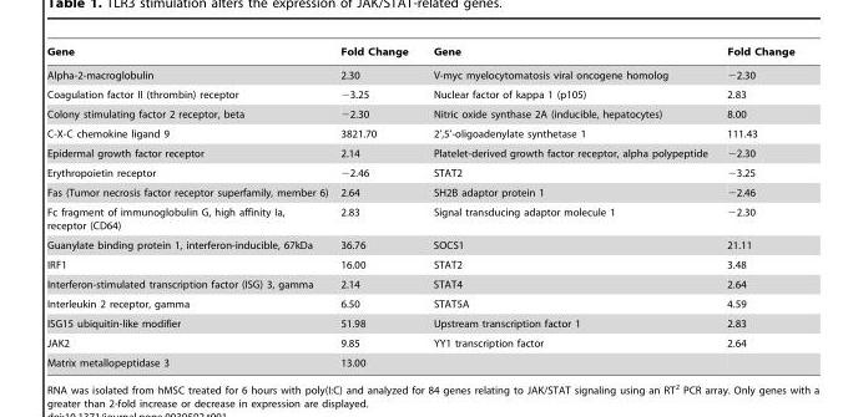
<table><thead><tr><td>Gene</td><td>Fold Change</td><td>Gene</td><td>Fold Change</td></tr></thead><tbody><tr><td>Alpha-2-macroglobulin</td><td>2.30</td><td>V-myc myelocytomatosis viral oncogene homolog</td><td>−2.30</td></tr><tr><td>Coagulation factor II (thrombin) receptor</td><td>−3.25</td><td>Nuclear factor of kappa 1 (p105)</td><td>2.83</td></tr><tr><td>Colony stimulating factor 2 receptor, beta</td><td>−2.30</td><td>Nitric oxide synthase 2A (inducible, hepatocytes)</td><td>8.00</td></tr><tr><td>C-X-C chemokine ligand 9</td><td>3821.70</td><td>2’,5’-oligoadenylate synthetase 1</td><td>111.43</td></tr><tr><td>Epidermal growth factor receptor</td><td>2.14</td><td>Platelet-derived growth factor receptor, alpha polypeptide</td><td>−2.30</td></tr><tr><td>Erythropoietin receptor</td><td>−2.46</td><td>STAT2</td><td>−3.25</td></tr><tr><td>Fas (Tumor necrosis factor receptor superfamily, member 6)</td><td>2.64</td><td>SH2B adaptor protein 1</td><td>−2.46</td></tr><tr><td>Fc fragment of immunoglobulin G, high affinity Ia, receptor (CD64)</td><td>2.83</td><td>Signal transducing adaptor molecule 1</td><td>−2.30</td></tr><tr><td>Guanylate binding protein 1, interferon-inducible, 67kDa</td><td>36.76</td><td>SOCS1</td><td>21.11</td></tr><tr><td>IRF1</td><td>16.00</td><td>STAT2</td><td>3.48</td></tr><tr><td>Interferon-stimulated transcription factor (ISG) 3, gamma</td><td>2.14</td><td>STAT4</td><td>2.64</td></tr><tr><td>Interleukin 2 receptor, gamma</td><td>6.50</td><td>STAT5A</td><td>4.59</td></tr><tr><td>ISG15 ubiquitin-like modifier</td><td>51.98</td><td>Upstream transcription factor 1</td><td>2.83</td></tr><tr><td>JAK2</td><td>9.85</td><td>YY1 transcription factor</td><td>2.64</td></tr><tr><td>Matrix metallopeptidase 3</td><td>13.00</td><td></td><td></td></tr></tbody></table>